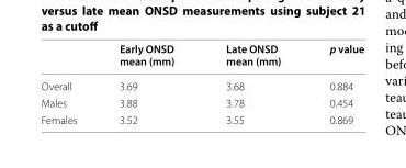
<table><thead><tr><td></td><td>Early ONSD mean (mm)</td><td>Late ONSD mean (mm)</td><td>p value</td></tr></thead><tbody><tr><td>Overall</td><td>3.69</td><td>3.68</td><td>0.884</td></tr><tr><td>Males</td><td>3.88</td><td>3.78</td><td>0.454</td></tr><tr><td>Females</td><td>3.52</td><td>3.55</td><td>0.869</td></tr></tbody></table>